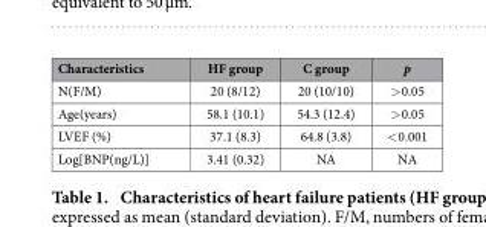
<table><thead><tr><td>Characteristics</td><td>HF group</td><td>C group</td><td>p</td></tr></thead><tbody><tr><td>N(F/M)</td><td>20 (8/12)</td><td>20 (10/10)</td><td>&gt; 0.05</td></tr><tr><td>Age(years)</td><td>58.1 (10.1)</td><td>54.3 (12.4)</td><td>&gt; 0.05</td></tr><tr><td>LVEF (%)</td><td>37.1 (8.3)</td><td>64.8 (3.8)</td><td>&lt; 0.001</td></tr><tr><td>Log[BNP(ng/L)]</td><td>3.41 (0.32)</td><td>NA</td><td>NA</td></tr></tbody></table>